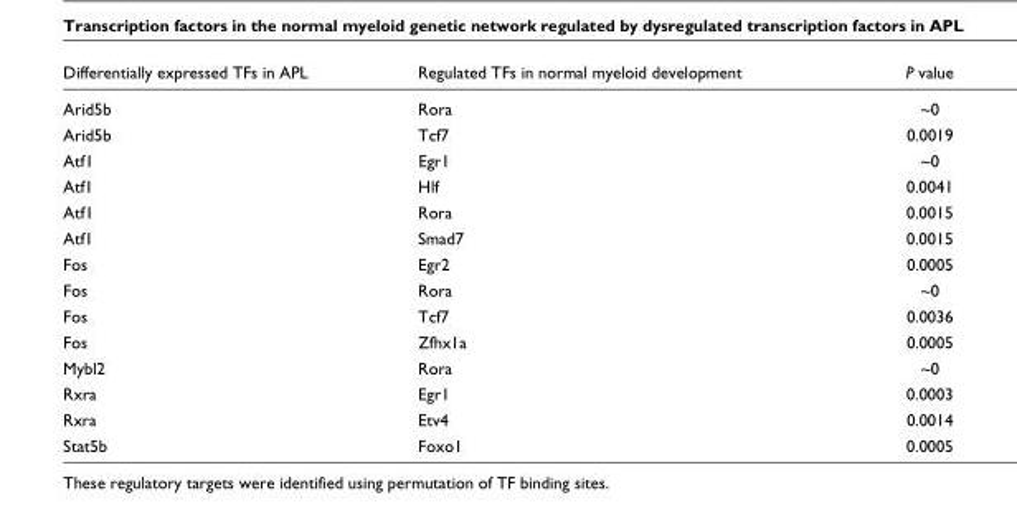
<table><thead><tr><td>Differentially expressed TFs in APL</td><td>Regulated TFs in normal myeloid development</td><td>P value</td></tr></thead><tbody><tr><td>Arid5b</td><td>Rora</td><td>~0</td></tr><tr><td>Arid5b</td><td>Tcf7</td><td>0.0019</td></tr><tr><td>Atf1</td><td>Egr1</td><td>~0</td></tr><tr><td>Atf1</td><td>Hlf</td><td>0.0041</td></tr><tr><td>Atf1</td><td>Rora</td><td>0.0015</td></tr><tr><td>Atf1</td><td>Smad7</td><td>0.0015</td></tr><tr><td>Fos</td><td>Egr2</td><td>0.0005</td></tr><tr><td>Fos</td><td>Rora</td><td>~0</td></tr><tr><td>Fos</td><td>Tcf7</td><td>0.0036</td></tr><tr><td>Fos</td><td>Zfhx1a</td><td>0.0005</td></tr><tr><td>Mybl2</td><td>Rora</td><td>~0</td></tr><tr><td>Rxra</td><td>Egr1</td><td>0.0003</td></tr><tr><td>Rxra</td><td>Etv4</td><td>0.0014</td></tr><tr><td>Stat5b</td><td>Foxo1</td><td>0.0005</td></tr></tbody></table>